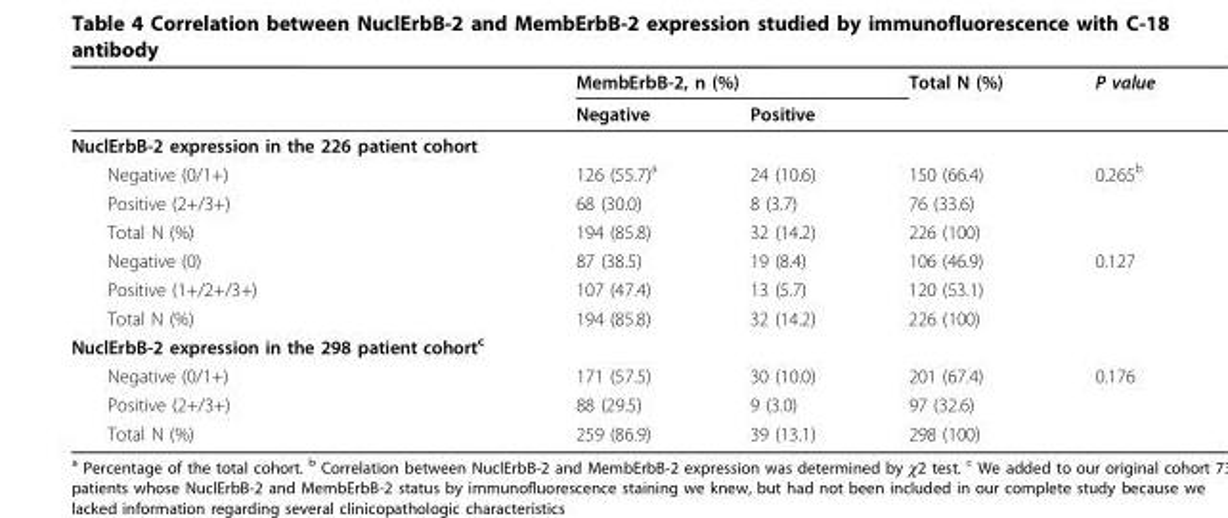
<table><thead><tr><td rowspan="2"></td><td colspan="2">MembErbB-2, n (%)</td><td rowspan="2">Total N (%)</td><td rowspan="2">P value</td></tr><tr><td>Negative</td><td>Positive</td></tr></thead><tbody><tr><td colspan="5">NuclErbB-2 expression in the 226 patient cohort</td></tr><tr><td>Negative (0/1+)</td><td>126 (55.7)<sup>a</sup></td><td>24 (10.6)</td><td>150 (66.4)</td><td>0.265<sup>b</sup></td></tr><tr><td>Positive (2+/3+)</td><td>68 (30.0)</td><td>8 (3.7)</td><td>76 (33.6)</td><td></td></tr><tr><td>Total N (%)</td><td>194 (85.8)</td><td>32 (14.2)</td><td>226 (100)</td><td></td></tr><tr><td>Negative (0)</td><td>87 (38.5)</td><td>19 (8.4)</td><td>106 (46.9)</td><td>0.127</td></tr><tr><td>Positive (1+/2+/3+)</td><td>107 (47.4)</td><td>13 (5.7)</td><td>120 (53.1)</td><td></td></tr><tr><td>Total N (%)</td><td>194 (85.8)</td><td>32 (14.2)</td><td>226 (100)</td><td></td></tr><tr><td colspan="5">NuclErbB-2 expression in the 298 patient cohort<sup>c</sup></td></tr><tr><td>Negative (0/1+)</td><td>171 (57.5)</td><td>30 (10.0)</td><td>201 (67.4)</td><td>0.176</td></tr><tr><td>Positive (2+/3+)</td><td>88 (29.5)</td><td>9 (3.0)</td><td>97 (32.6)</td><td></td></tr><tr><td>Total N (%)</td><td>259 (86.9)</td><td>39 (13.1)</td><td>298 (100)</td><td></td></tr></tbody></table>